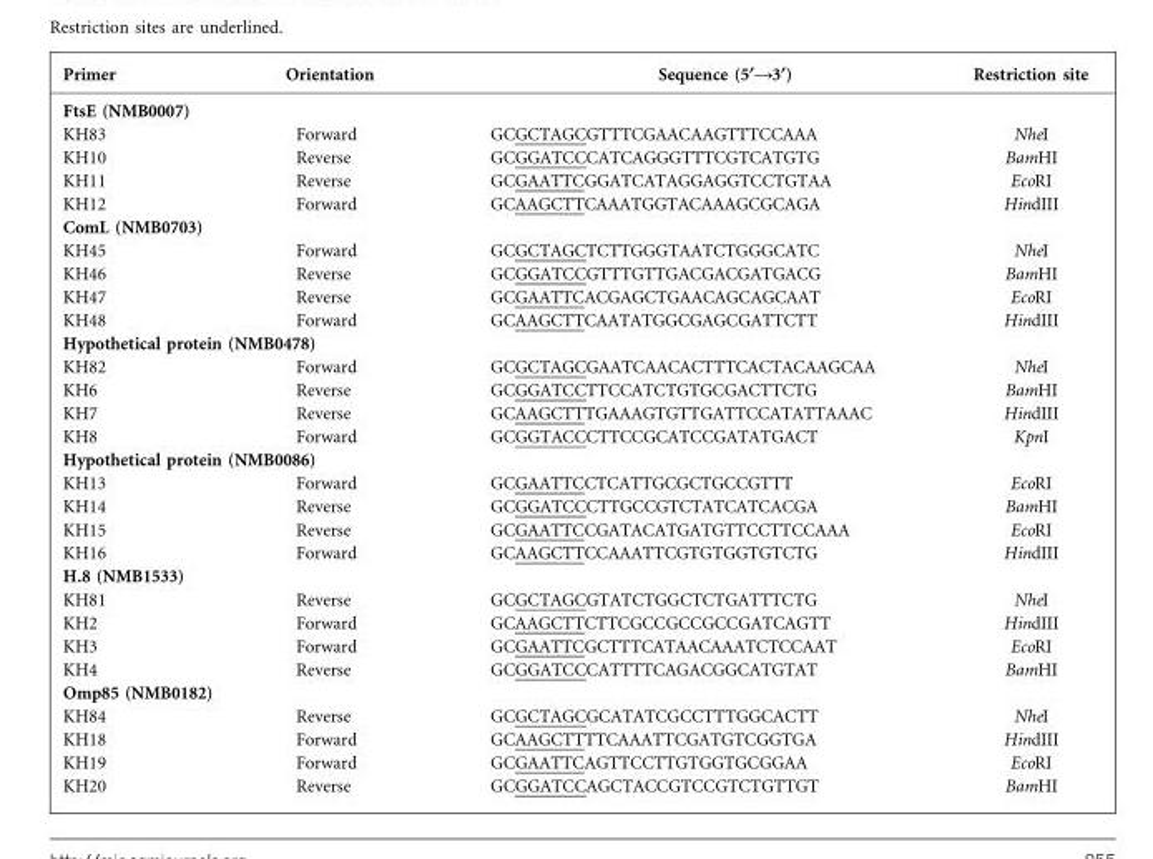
<table><thead><tr><td>Primer</td><td>Orientation</td><td>Sequence (5§A3§)</td><td>Restriction site</td></tr></thead><tbody><tr><td colspan="4">FtsE (NMB0007)</td></tr><tr><td>KH83</td><td>Forward</td><td>GCGCTAGCGTTTCGAACAAGTTTCCAAA</td><td>NheI</td></tr><tr><td>KH10</td><td>Reverse</td><td>GCGGATCCCATCAGGGTTTCGTCATGTG</td><td>BamHI</td></tr><tr><td>KH11</td><td>Reverse</td><td>GCGAATTCGGATCATAGGAGGTCCTGTAA</td><td>EcoRI</td></tr><tr><td>KH12</td><td>Forward</td><td>GCAAGCTTCAAATGGTACAAAGCGCAGA</td><td>HindIII</td></tr><tr><td colspan="4">ComL (NMB0703)</td></tr><tr><td>KH45</td><td>Forward</td><td>GCGCTAGCTCTTGGGTAATCTGGGCATC</td><td>NheI</td></tr><tr><td>KH46</td><td>Reverse</td><td>GCGGATCCGTTTGTTGACGACGATGACG</td><td>BamHI</td></tr><tr><td>KH47</td><td>Reverse</td><td>GCGAATTCACGAGCTGAACAGCAGCAAT</td><td>EcoRI</td></tr><tr><td>KH48</td><td>Forward</td><td>GCAAGCTTCAATATGGCGAGCGATTCTT</td><td>HindIII</td></tr><tr><td colspan="4">Hypothetical protein (NMB0478)</td></tr><tr><td>KH82</td><td>Forward</td><td>GCGCTAGCGAATCAACACTTTCACTACAAGCAA</td><td>NheI</td></tr><tr><td>KH6</td><td>Reverse</td><td>GCGGATCCTTCCATCTGTGCGACTTCTG</td><td>BamHI</td></tr><tr><td>KH7</td><td>Reverse</td><td>GCAAGCTTTGAAAGTGTTGATTCCATATTAAAC</td><td>HindIII</td></tr><tr><td>KH8</td><td>Forward</td><td>GCGGTACCCTTCCGCATCCGATATGACT</td><td>KpnI</td></tr><tr><td colspan="4">Hypothetical protein (NMB0086)</td></tr><tr><td>KH13</td><td>Forward</td><td>GCGAATTCCTCATTGCGCTGCCGTTT</td><td>EcoRI</td></tr><tr><td>KH14</td><td>Reverse</td><td>GCGGATCCCTTGCCGTCTATCATCACGA</td><td>BamHI</td></tr><tr><td>KH15</td><td>Reverse</td><td>GCGAATTCCGATACATGATGTTCCTTCCAAA</td><td>EcoRI</td></tr><tr><td>KH16</td><td>Forward</td><td>GCAAGCTTCCAAATTCGTGTGGTGTCTG</td><td>HindIII</td></tr><tr><td colspan="4">H.8 (NMB1533)</td></tr><tr><td>KH81</td><td>Reverse</td><td>GCGCTAGCGTATCTGGCTCTGATTTCTG</td><td>NheI</td></tr><tr><td>KH2</td><td>Forward</td><td>GCAAGCTTCTTCGCCGCCGCCGATCAGTT</td><td>HindIII</td></tr><tr><td>KH3</td><td>Forward</td><td>GCGAATTCGCTTTCATAACAAATCTCCAAT</td><td>EcoRI</td></tr><tr><td>KH4</td><td>Reverse</td><td>GCGGATCCCATTTTCAGACGGCATGTAT</td><td>BamHI</td></tr><tr><td colspan="4">Omp85 (NMB0182)</td></tr><tr><td>KH84</td><td>Reverse</td><td>GCGCTAGCGCATATCGCCTTTGGCACTT</td><td>NheI</td></tr><tr><td>KH18</td><td>Forward</td><td>GCAAGCTTTTCAAATTCGATGTCGGTGA</td><td>HindIII</td></tr><tr><td>KH19</td><td>Forward</td><td>GCGAATTCAGTTCCTTGTGGTGCGGAA</td><td>EcoRI</td></tr><tr><td>KH20</td><td>Reverse</td><td>GCGGATCCAGCTACCGTCCGTCTGTTGT</td><td>BamHI</td></tr></tbody></table>